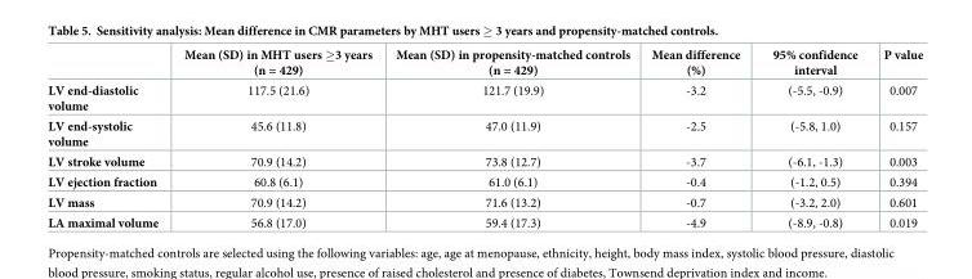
<table><thead><tr><td></td><td>Mean (SD) in MHT users ≥3 years (n = 429)</td><td>Mean (SD) in propensity-matched controls (n = 429)</td><td>Mean difference (%)</td><td>95% confidence interval</td><td>P value</td></tr></thead><tbody><tr><td>LV end-diastolic volume</td><td>117.5 (21.6)</td><td>121.7 (19.9)</td><td>-3.2</td><td>(-5.5, -0.9)</td><td>0.007</td></tr><tr><td>LV end-systolic volume</td><td>45.6 (11.8)</td><td>47.0 (11.9)</td><td>-2.5</td><td>(-5.8, 1.0)</td><td>0.157</td></tr><tr><td>LV stroke volume</td><td>70.9 (14.2)</td><td>73.8 (12.7)</td><td>-3.7</td><td>(-6.1, -1.3)</td><td>0.003</td></tr><tr><td>LV ejection fraction</td><td>60.8 (6.1)</td><td>61.0 (6.1)</td><td>-0.4</td><td>(-1.2, 0.5)</td><td>0.394</td></tr><tr><td>LV mass</td><td>70.9 (14.2)</td><td>71.6 (13.2)</td><td>-0.7</td><td>(-3.2, 2.0)</td><td>0.601</td></tr><tr><td>LA maximal volume</td><td>56.8 (17.0)</td><td>59.4 (17.3)</td><td>-4.9</td><td>(-8.9, -0.8)</td><td>0.019</td></tr></tbody></table>